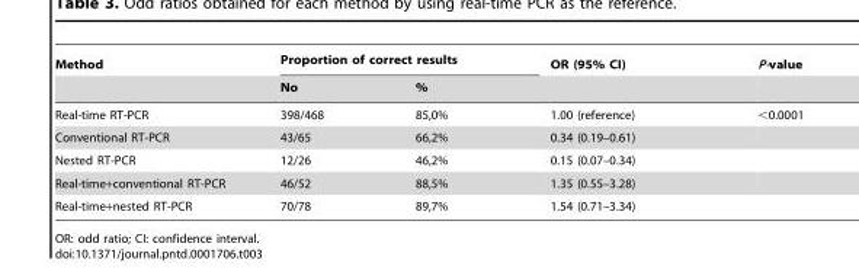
<table><thead><tr><td rowspan="2">Method</td><td colspan="2">Proportion of correct results</td><td rowspan="2">OR (95% CI)</td><td rowspan="2">P-value</td></tr><tr><td>No</td><td>%</td></tr></thead><tbody><tr><td>Real-time RT-PCR</td><td>398/468</td><td>85,0%</td><td>1.00 (reference)</td><td>&lt;0.0001</td></tr><tr><td>Conventional RT-PCR</td><td>43/65</td><td>66,2%</td><td>0.34 (0.19–0.61)</td><td></td></tr><tr><td>Nested RT-PCR</td><td>12/26</td><td>46,2%</td><td>0.15 (0.07–0.34)</td><td></td></tr><tr><td>Real-time+conventional RT-PCR</td><td>46/52</td><td>88,5%</td><td>1.35 (0.55–3.28)</td><td></td></tr><tr><td>Real-time+nested RT-PCR</td><td>70/78</td><td>89,7%</td><td>1.54 (0.71–3.34)</td><td></td></tr></tbody></table>